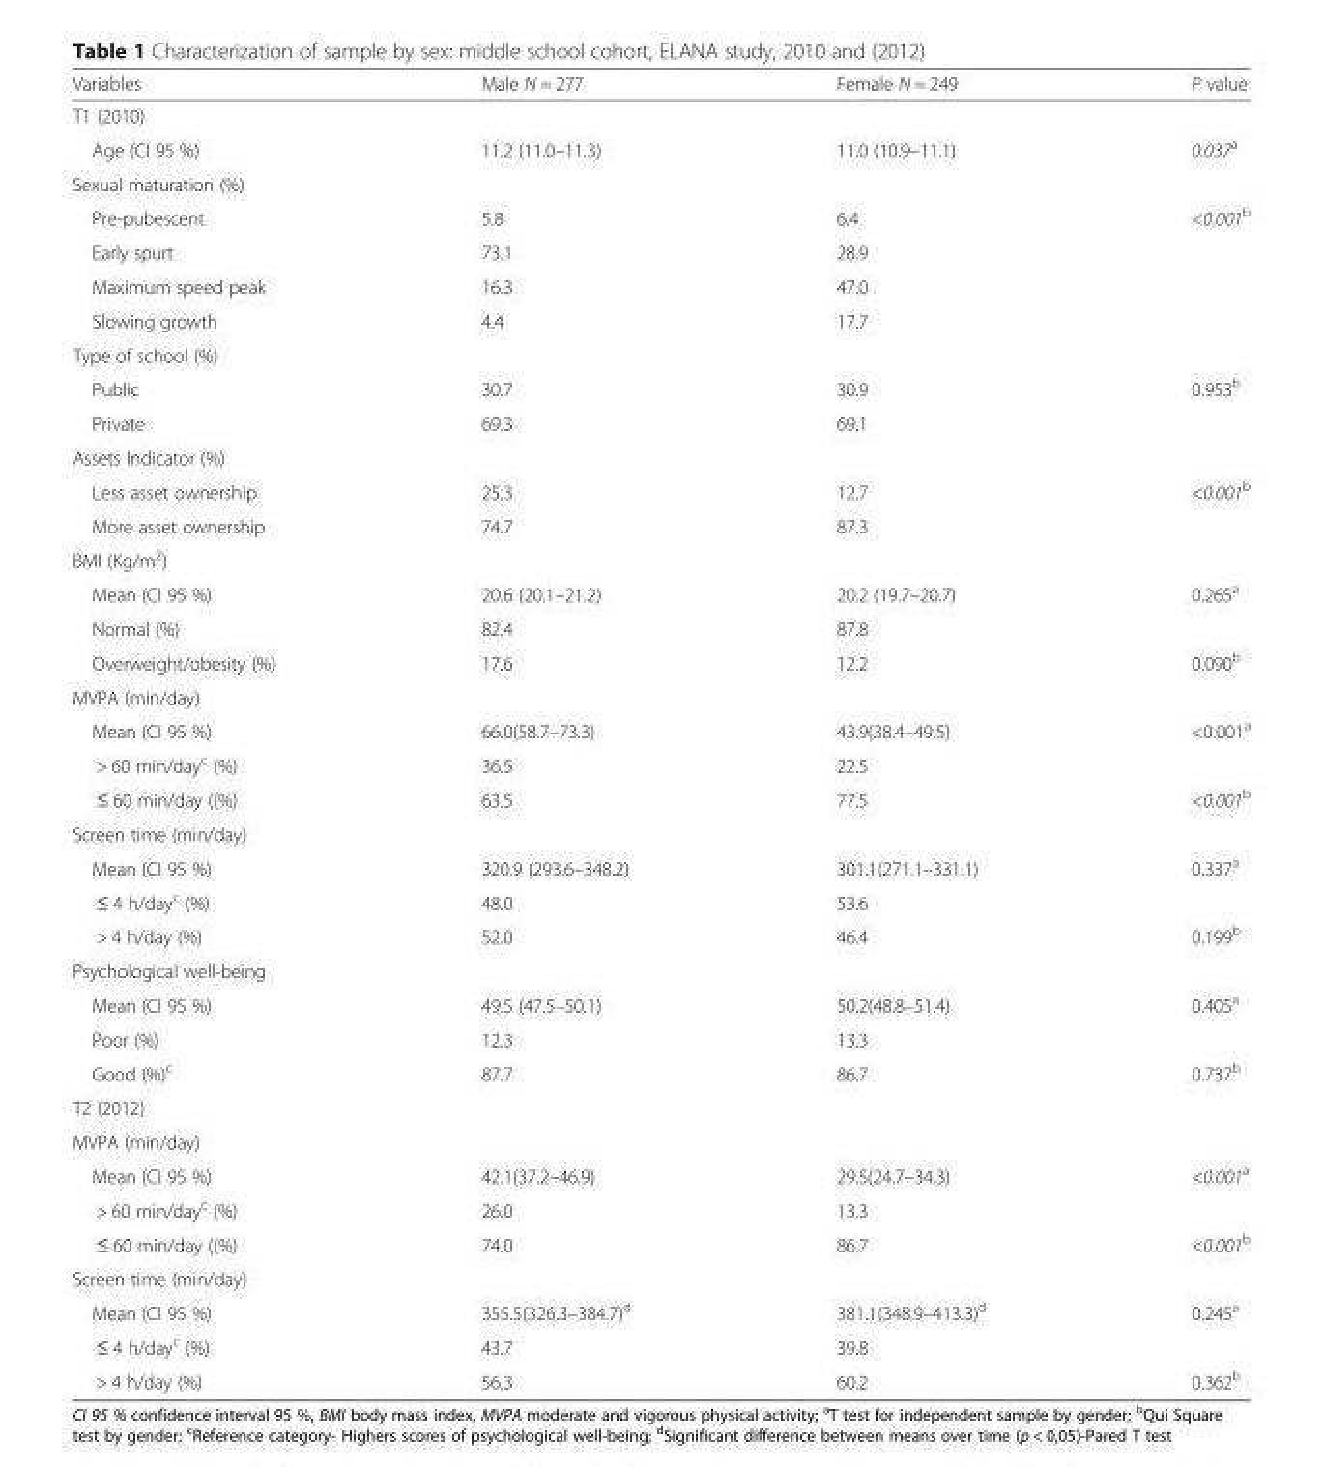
<table><thead><tr><td>Variables</td><td>Male N = 277</td><td>Female N = 249</td><td>P value</td></tr></thead><tbody><tr><td colspan="4">T1 (2010)</td></tr><tr><td>Age (CI 95 %)</td><td>11.2 (11.0–11.3)</td><td>11.0 (10.9–11.1)</td><td>0.037<sup>a</sup></td></tr><tr><td colspan="4">Sexual maturation (%)</td></tr><tr><td>Pre-pubescent</td><td>5.8</td><td>6.4</td><td rowspan="4">&lt;0.001<sup>b</sup></td></tr><tr><td>Early spurt</td><td>73.1</td><td>28.9</td></tr><tr><td>Maximum speed peak</td><td>16.3</td><td>47.0</td></tr><tr><td>Slowing growth</td><td>4.4</td><td>17.7</td></tr><tr><td colspan="4">Type of school (%)</td></tr><tr><td>Public</td><td>30.7</td><td>30.9</td><td rowspan="2">0.953<sup>b</sup></td></tr><tr><td>Private</td><td>69.3</td><td>69.1</td></tr><tr><td colspan="4">Assets Indicator (%)</td></tr><tr><td>Less asset ownership</td><td>25.3</td><td>12.7</td><td rowspan="2">&lt;0.001<sup>b</sup></td></tr><tr><td>More asset ownership</td><td>74.7</td><td>87.3</td></tr><tr><td colspan="4">BMI (Kg/m<sup>2</sup>)</td></tr><tr><td>Mean (CI 95 %)</td><td>20.6 (20.1–21.2)</td><td>20.2 (19.7–20.7)</td><td>0.265<sup>a</sup></td></tr><tr><td>Normal (%)</td><td>82.4</td><td>87.8</td><td></td></tr><tr><td>Overweight/obesity (%)</td><td>17.6</td><td>12.2</td><td>0.090<sup>b</sup></td></tr><tr><td colspan="4">MVPA (min/day)</td></tr><tr><td>Mean (CI 95 %)</td><td>66.0(58.7–73.3)</td><td>43.9(38.4–49.5)</td><td>&lt;0.001<sup>a</sup></td></tr><tr><td>&gt; 60 min/day<sup>c</sup> (%)</td><td>36.5</td><td>22.5</td><td></td></tr><tr><td>≤ 60 min/day ((%)</td><td>63.5</td><td>77.5</td><td>&lt;0.001<sup>b</sup></td></tr><tr><td colspan="4">Screen time (min/day)</td></tr><tr><td>Mean (CI 95 %)</td><td>320.9 (293.6–348.2)</td><td>301.1(271.1–331.1)</td><td>0.337<sup>a</sup></td></tr><tr><td>≤ 4 h/day<sup>c</sup> (%)</td><td>48.0</td><td>53.6</td><td></td></tr><tr><td>&gt; 4 h/day (%)</td><td>52.0</td><td>46.4</td><td>0.199<sup>b</sup></td></tr><tr><td colspan="4">Psychological well-being</td></tr><tr><td>Mean (CI 95 %)</td><td>49.5 (47.5–50.1)</td><td>50.2(48.8–51.4)</td><td>0.405<sup>a</sup></td></tr><tr><td>Poor (%)</td><td>12.3</td><td>13.3</td><td></td></tr><tr><td>Good (%)<sup>c</sup></td><td>87.7</td><td>86.7</td><td>0.737<sup>b</sup></td></tr><tr><td colspan="4">T2 (2012)</td></tr><tr><td colspan="4">MVPA (min/day)</td></tr><tr><td>Mean (CI 95 %)</td><td>42.1(37.2–46.9)</td><td>29.5(24.7–34.3)</td><td>&lt;0.001<sup>a</sup></td></tr><tr><td>&gt; 60 min/day<sup>c</sup> (%)</td><td>26.0</td><td>13.3</td><td></td></tr><tr><td>≤ 60 min/day ((%)</td><td>74.0</td><td>86.7</td><td>&lt;0.001<sup>b</sup></td></tr><tr><td colspan="4">Screen time (min/day)</td></tr><tr><td>Mean (CI 95 %)</td><td>355.5(326.3–384.7)<sup>d</sup></td><td>381.1(348.9–413.3)<sup>d</sup></td><td>0.245<sup>a</sup></td></tr><tr><td>≤ 4 h/day<sup>c</sup> (%)</td><td>43.7</td><td>39.8</td><td></td></tr><tr><td>&gt; 4 h/day (%)</td><td>56.3</td><td>60.2</td><td>0.362<sup>b</sup></td></tr></tbody></table>